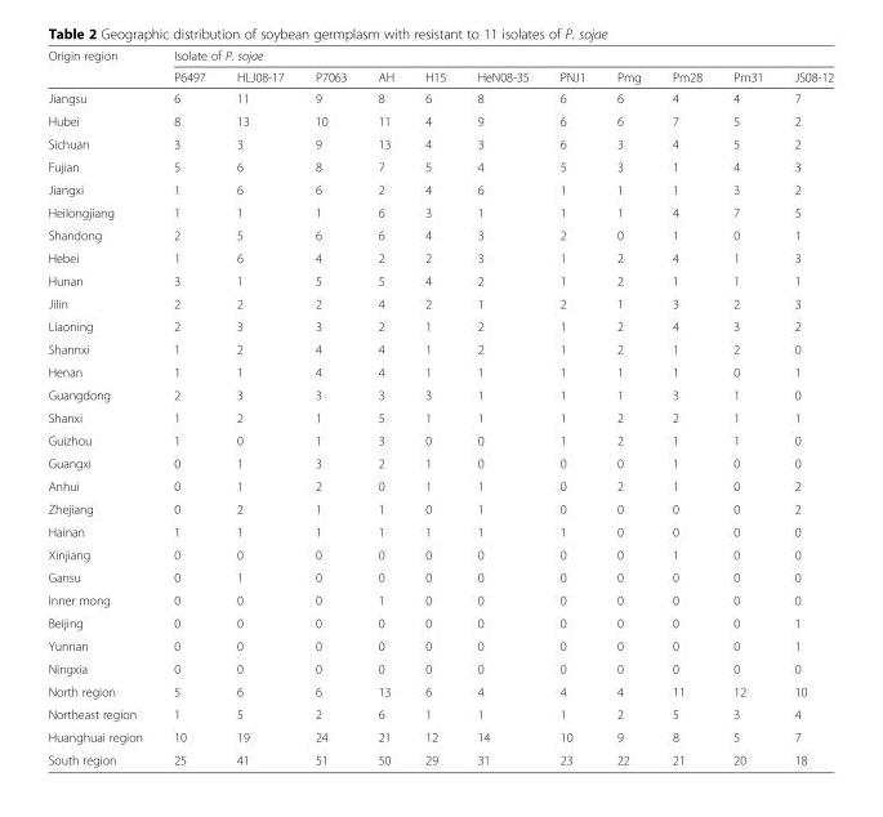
<table><thead><tr><td rowspan="2">Origin region</td><td colspan="11">Isolate of P. sojae</td></tr><tr><td>P6497</td><td>HLJ08-17</td><td>P7063</td><td>AH</td><td>H15</td><td>HeN08-35</td><td>PNJ1</td><td>Pmg</td><td>Pm28</td><td>Pm31</td><td>JS08-12</td></tr></thead><tbody><tr><td>Jiangsu</td><td>6</td><td>11</td><td>9</td><td>8</td><td>6</td><td>8</td><td>6</td><td>6</td><td>4</td><td>4</td><td>7</td></tr><tr><td>Hubei</td><td>8</td><td>13</td><td>10</td><td>11</td><td>4</td><td>9</td><td>6</td><td>6</td><td>7</td><td>5</td><td>2</td></tr><tr><td>Sichuan</td><td>3</td><td>3</td><td>9</td><td>13</td><td>4</td><td>3</td><td>6</td><td>3</td><td>4</td><td>5</td><td>2</td></tr><tr><td>Fujian</td><td>5</td><td>6</td><td>8</td><td>7</td><td>5</td><td>4</td><td>5</td><td>3</td><td>1</td><td>4</td><td>3</td></tr><tr><td>Jiangxi</td><td>1</td><td>6</td><td>6</td><td>2</td><td>4</td><td>6</td><td>1</td><td>1</td><td>1</td><td>3</td><td>2</td></tr><tr><td>Heilongjiang</td><td>1</td><td>1</td><td>1</td><td>6</td><td>3</td><td>1</td><td>1</td><td>1</td><td>4</td><td>7</td><td>5</td></tr><tr><td>Shandong</td><td>2</td><td>5</td><td>6</td><td>6</td><td>4</td><td>3</td><td>2</td><td>0</td><td>1</td><td>0</td><td>1</td></tr><tr><td>Hebei</td><td>1</td><td>6</td><td>4</td><td>2</td><td>2</td><td>3</td><td>1</td><td>2</td><td>4</td><td>1</td><td>3</td></tr><tr><td>Hunan</td><td>3</td><td>1</td><td>5</td><td>5</td><td>4</td><td>2</td><td>1</td><td>2</td><td>1</td><td>1</td><td>1</td></tr><tr><td>Jilin</td><td>2</td><td>2</td><td>2</td><td>4</td><td>2</td><td>1</td><td>2</td><td>1</td><td>3</td><td>2</td><td>3</td></tr><tr><td>Liaoning</td><td>2</td><td>3</td><td>3</td><td>2</td><td>1</td><td>2</td><td>1</td><td>2</td><td>4</td><td>3</td><td>2</td></tr><tr><td>Shannxi</td><td>1</td><td>2</td><td>4</td><td>4</td><td>1</td><td>2</td><td>1</td><td>2</td><td>1</td><td>2</td><td>0</td></tr><tr><td>Henan</td><td>1</td><td>1</td><td>4</td><td>4</td><td>1</td><td>1</td><td>1</td><td>1</td><td>1</td><td>0</td><td>1</td></tr><tr><td>Guangdong</td><td>2</td><td>3</td><td>3</td><td>3</td><td>3</td><td>1</td><td>1</td><td>1</td><td>3</td><td>1</td><td>0</td></tr><tr><td>Shanxi</td><td>1</td><td>2</td><td>1</td><td>5</td><td>1</td><td>1</td><td>1</td><td>2</td><td>2</td><td>1</td><td>1</td></tr><tr><td>Guizhou</td><td>1</td><td>0</td><td>1</td><td>3</td><td>0</td><td>0</td><td>1</td><td>2</td><td>1</td><td>1</td><td>0</td></tr><tr><td>Guangxi</td><td>0</td><td>1</td><td>3</td><td>2</td><td>1</td><td>0</td><td>0</td><td>0</td><td>1</td><td>0</td><td>0</td></tr><tr><td>Anhui</td><td>0</td><td>1</td><td>2</td><td>0</td><td>1</td><td>1</td><td>0</td><td>2</td><td>1</td><td>0</td><td>2</td></tr><tr><td>Zhejiang</td><td>0</td><td>2</td><td>1</td><td>1</td><td>0</td><td>1</td><td>0</td><td>0</td><td>0</td><td>0</td><td>2</td></tr><tr><td>Hainan</td><td>1</td><td>1</td><td>1</td><td>1</td><td>1</td><td>1</td><td>1</td><td>0</td><td>0</td><td>0</td><td>0</td></tr><tr><td>Xinjiang</td><td>0</td><td>0</td><td>0</td><td>0</td><td>0</td><td>0</td><td>0</td><td>0</td><td>1</td><td>0</td><td>0</td></tr><tr><td>Gansu</td><td>0</td><td>1</td><td>0</td><td>0</td><td>0</td><td>0</td><td>0</td><td>0</td><td>0</td><td>0</td><td>0</td></tr><tr><td>Inner mong</td><td>0</td><td>0</td><td>0</td><td>1</td><td>0</td><td>0</td><td>0</td><td>0</td><td>0</td><td>0</td><td>0</td></tr><tr><td>Beijing</td><td>0</td><td>0</td><td>0</td><td>0</td><td>0</td><td>0</td><td>0</td><td>0</td><td>0</td><td>0</td><td>1</td></tr><tr><td>Yunnan</td><td>0</td><td>0</td><td>0</td><td>0</td><td>0</td><td>0</td><td>0</td><td>0</td><td>0</td><td>0</td><td>1</td></tr><tr><td>Ningxia</td><td>0</td><td>0</td><td>0</td><td>0</td><td>0</td><td>0</td><td>0</td><td>0</td><td>0</td><td>0</td><td>0</td></tr><tr><td>North region</td><td>5</td><td>6</td><td>6</td><td>13</td><td>6</td><td>4</td><td>4</td><td>4</td><td>11</td><td>12</td><td>10</td></tr><tr><td>Northeast region</td><td>1</td><td>5</td><td>2</td><td>6</td><td>1</td><td>1</td><td>1</td><td>2</td><td>5</td><td>3</td><td>4</td></tr><tr><td>Huanghuai region</td><td>10</td><td>19</td><td>24</td><td>21</td><td>12</td><td>14</td><td>10</td><td>9</td><td>8</td><td>5</td><td>7</td></tr><tr><td>South region</td><td>25</td><td>41</td><td>51</td><td>50</td><td>29</td><td>31</td><td>23</td><td>22</td><td>21</td><td>20</td><td>18</td></tr></tbody></table>